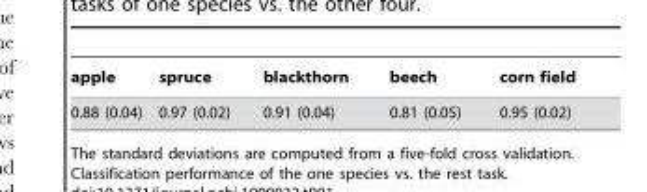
<table><thead><tr><td>apple</td><td>spruce</td><td>blackthorn</td><td>beech</td><td>corn field</td></tr></thead><tbody><tr><td>0.88 (0.04)</td><td>0.97 (0.02)</td><td>0.91 (0.04)</td><td>0.81 (0.05)</td><td>0.95 (0.02)</td></tr></tbody></table>